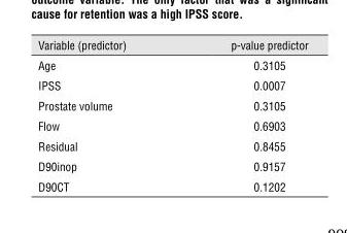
<table><thead><tr><td>Variable (predictor)</td><td>p-value predictor</td></tr></thead><tbody><tr><td>Age</td><td>0.3105</td></tr><tr><td>IPSS</td><td>0.0007</td></tr><tr><td>Prostate volume</td><td>0.3105</td></tr><tr><td>Flow</td><td>0.6903</td></tr><tr><td>Residual</td><td>0.8455</td></tr><tr><td>D90inop</td><td>0.9157</td></tr><tr><td>D90CT</td><td>0.1202</td></tr></tbody></table>